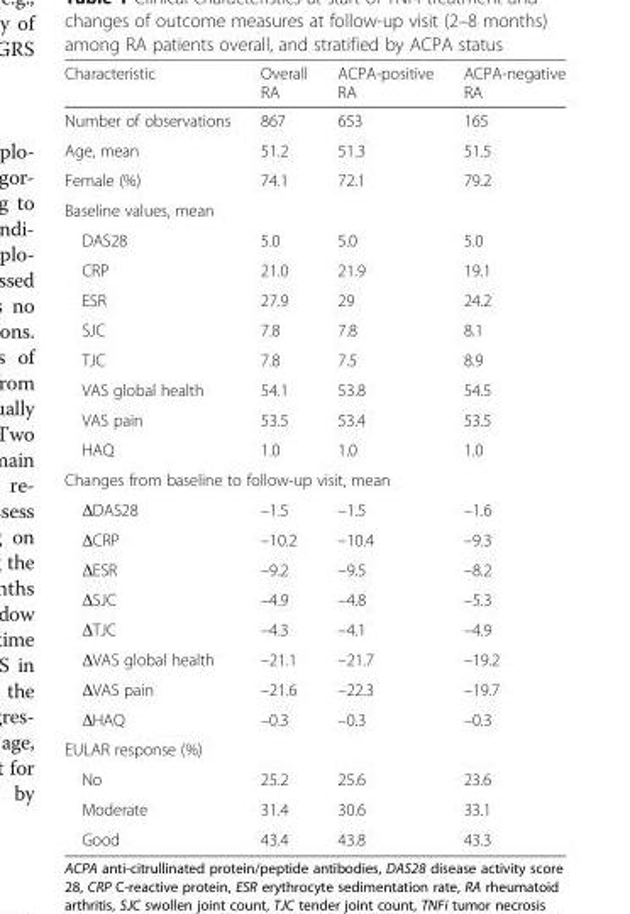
<table><thead><tr><td>Characteristic</td><td>Overall RA</td><td>ACPA-positive RA</td><td>ACPA-negative RA</td></tr></thead><tbody><tr><td>Number of observations</td><td>867</td><td>653</td><td>165</td></tr><tr><td>Age, mean</td><td>51.2</td><td>51.3</td><td>51.5</td></tr><tr><td>Female (%)</td><td>74.1</td><td>72.1</td><td>79.2</td></tr><tr><td colspan="4">Baseline values, mean</td></tr><tr><td>DAS28</td><td>5.0</td><td>5.0</td><td>5.0</td></tr><tr><td>CRP</td><td>21.0</td><td>21.9</td><td>19.1</td></tr><tr><td>ESR</td><td>27.9</td><td>29</td><td>24.2</td></tr><tr><td>SJC</td><td>7.8</td><td>7.8</td><td>8.1</td></tr><tr><td>TJC</td><td>7.8</td><td>7.5</td><td>8.9</td></tr><tr><td>VAS global health</td><td>54.1</td><td>53.8</td><td>54.5</td></tr><tr><td>VAS pain</td><td>53.5</td><td>53.4</td><td>53.5</td></tr><tr><td>HAQ</td><td>1.0</td><td>1.0</td><td>1.0</td></tr><tr><td colspan="4">Changes from baseline to follow-up visit, mean</td></tr><tr><td>ΔDAS28</td><td>–1.5</td><td>–1.5</td><td>–1.6</td></tr><tr><td>ΔCRP</td><td>–10.2</td><td>–10.4</td><td>–9.3</td></tr><tr><td>ΔESR</td><td>–9.2</td><td>–9.5</td><td>–8.2</td></tr><tr><td>ΔSJC</td><td>–4.9</td><td>–4.8</td><td>–5.3</td></tr><tr><td>ΔTJC</td><td>–4.3</td><td>–4.1</td><td>–4.9</td></tr><tr><td>ΔVAS global health</td><td>–21.1</td><td>–21.7</td><td>–19.2</td></tr><tr><td>ΔVAS pain</td><td>–21.6</td><td>–22.3</td><td>–19.7</td></tr><tr><td>ΔHAQ</td><td>–0.3</td><td>–0.3</td><td>–0.3</td></tr><tr><td colspan="4">EULAR response (%)</td></tr><tr><td>No</td><td>25.2</td><td>25.6</td><td>23.6</td></tr><tr><td>Moderate</td><td>31.4</td><td>30.6</td><td>33.1</td></tr><tr><td>Good</td><td>43.4</td><td>43.8</td><td>43.3</td></tr></tbody></table>